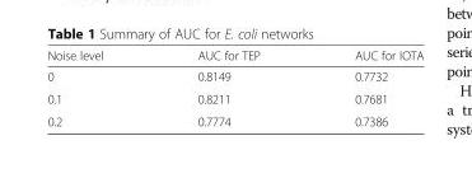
<table><thead><tr><td>Noise level</td><td>AUC for TEP</td><td>AUC for IOTA</td></tr></thead><tbody><tr><td>0</td><td>0.8149</td><td>0.7732</td></tr><tr><td>0.1</td><td>0.8211</td><td>0.7681</td></tr><tr><td>0.2</td><td>0.7774</td><td>0.7386</td></tr></tbody></table>